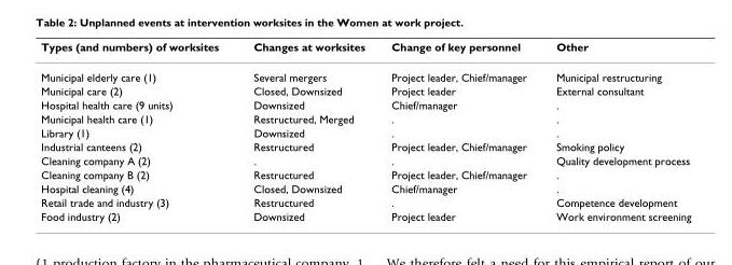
<table><thead><tr><td>Types (and numbers) of worksites</td><td>Changes at worksites</td><td>Change of key personnel</td><td>Other</td></tr></thead><tbody><tr><td>Municipal elderly care (1)</td><td>Several mergers</td><td>Project leader, Chief/manager</td><td>Municipal restructuring</td></tr><tr><td>Municipal care (2)</td><td>Closed, Downsized</td><td>Project leader</td><td>External consultant</td></tr><tr><td>Hospital health care (9 units)</td><td>Downsized</td><td>Chief/manager</td><td>.</td></tr><tr><td>Municipal health care (1)</td><td>Restructured, Merged</td><td>.</td><td>.</td></tr><tr><td>Library (1)</td><td>Downsized</td><td>.</td><td>.</td></tr><tr><td>Industrial canteens (2)</td><td>Restructured</td><td>Project leader, Chief/manager</td><td>Smoking policy</td></tr><tr><td>Cleaning company A (2)</td><td>.</td><td>.</td><td>Quality development process</td></tr><tr><td>Cleaning company B (2)</td><td>Restructured</td><td>Project leader, Chief/manager</td><td>.</td></tr><tr><td>Hospital cleaning (4)</td><td>Closed, Downsized</td><td>Chief/manager</td><td>.</td></tr><tr><td>Retail trade and industry (3)</td><td>Restructured</td><td>.</td><td>Competence development</td></tr><tr><td>Food industry (2)</td><td>Downsized</td><td>Project leader</td><td>Work environment screening</td></tr></tbody></table>